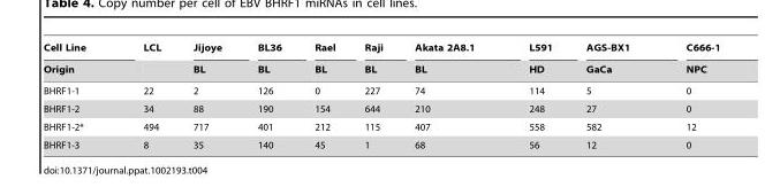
<table><thead><tr><td rowspan="2">Cell Line Origin</td><td rowspan="2">LCL</td><td rowspan="2">Jijoye BL</td><td rowspan="2">BL36 BL</td><td rowspan="2">Rael BL</td><td rowspan="2">Raji BL</td><td rowspan="2">Akata 2A8.1 BL</td><td rowspan="2">L591 HD</td><td rowspan="2">AGS-BX1 GaCa</td><td rowspan="2">C666-1 NPC</td></tr><tr></tr></thead><tbody><tr><td>BHRF1-1</td><td>22</td><td>2</td><td>126</td><td>0</td><td>227</td><td>74</td><td>114</td><td>5</td><td>0</td></tr><tr><td>BHRF1-2</td><td>34</td><td>88</td><td>190</td><td>154</td><td>644</td><td>210</td><td>248</td><td>27</td><td>0</td></tr><tr><td>BHRF1-2*</td><td>494</td><td>717</td><td>401</td><td>212</td><td>115</td><td>407</td><td>558</td><td>582</td><td>12</td></tr><tr><td>BHRF1-3</td><td>8</td><td>35</td><td>140</td><td>45</td><td>1</td><td>68</td><td>56</td><td>12</td><td>0</td></tr></tbody></table>